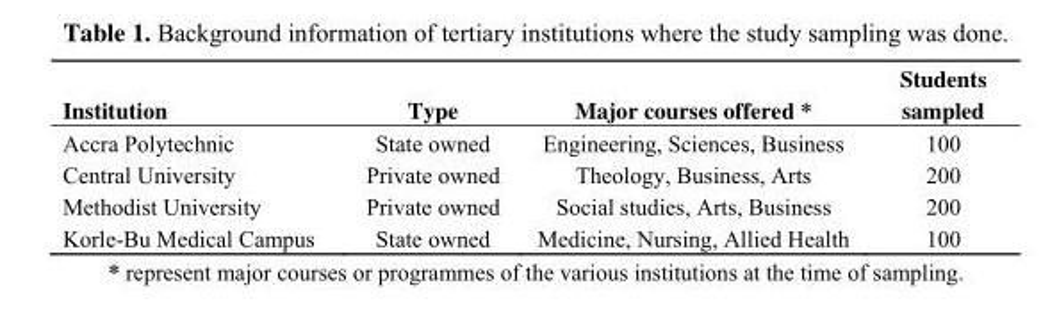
<table><thead><tr><td>Institution</td><td>Type</td><td>Major courses offered *</td><td>Students sampled</td></tr></thead><tbody><tr><td>Accra Polytechnic</td><td>State owned</td><td>Engineering, Sciences, Business</td><td>100</td></tr><tr><td>Central University</td><td>Private owned</td><td>Theology, Business, Arts</td><td>200</td></tr><tr><td>Methodist University</td><td>Private owned</td><td>Social studies, Arts, Business</td><td>200</td></tr><tr><td>Korle-Bu Medical Campus</td><td>State owned</td><td>Medicine, Nursing, Allied Health</td><td>100</td></tr></tbody></table>